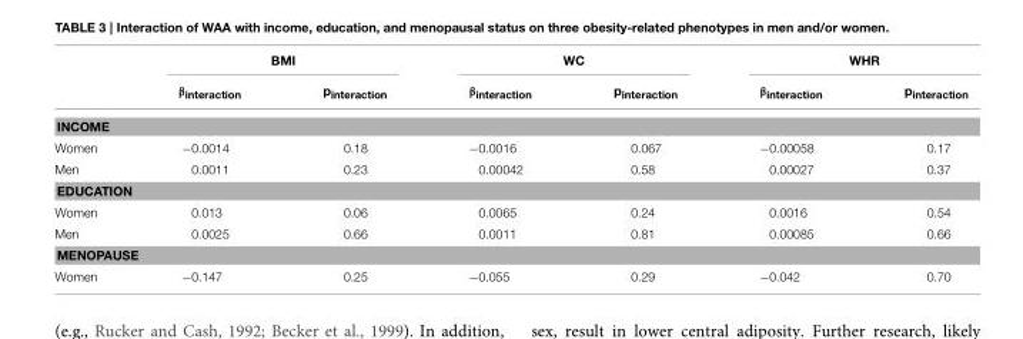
<table><thead><tr><td rowspan="2"></td><td colspan="2">BMI</td><td colspan="2">WC</td><td colspan="2">WHR</td></tr><tr><td>β<sub>interaction</sub></td><td>p<sub>interaction</sub></td><td>β<sub>interaction</sub></td><td>p<sub>interaction</sub></td><td>β<sub>interaction</sub></td><td>p<sub>interaction</sub></td></tr></thead><tbody><tr><td colspan="7">INCOME</td></tr><tr><td>Women</td><td>−0.0014</td><td>0.18</td><td>−0.0016</td><td>0.067</td><td>−0.00058</td><td>0.17</td></tr><tr><td>Men</td><td>0.0011</td><td>0.23</td><td>0.00042</td><td>0.58</td><td>0.00027</td><td>0.37</td></tr><tr><td colspan="7">EDUCATION</td></tr><tr><td>Women</td><td>0.013</td><td>0.06</td><td>0.0065</td><td>0.24</td><td>0.0016</td><td>0.54</td></tr><tr><td>Men</td><td>0.0025</td><td>0.66</td><td>0.0011</td><td>0.81</td><td>0.00085</td><td>0.66</td></tr><tr><td colspan="7">MENOPAUSE</td></tr><tr><td>Women</td><td>−0.147</td><td>0.25</td><td>−0.055</td><td>0.29</td><td>−0.042</td><td>0.70</td></tr></tbody></table>